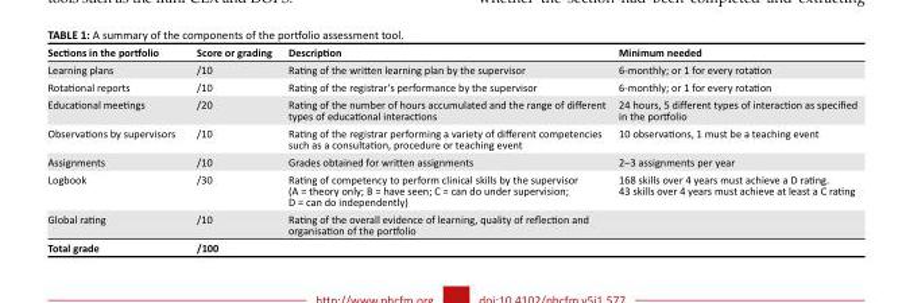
<table><thead><tr><td>Sections in the portfolio</td><td>Score or grading</td><td>Description</td><td>Minimum needed</td></tr></thead><tbody><tr><td>Learning plans</td><td>/10</td><td>Rating of the written learning plan by the supervisor</td><td>6-monthly; or 1 for every rotation</td></tr><tr><td>Rotational reports</td><td>/10</td><td>Rating of the registrar’s performance by the supervisor</td><td>6-monthly; or 1 for every rotation</td></tr><tr><td>Educational meetings</td><td>/20</td><td>Rating of the number of hours accumulated and the range of different types of educational interactions</td><td>24 hours, 5 different types of interaction as specified in the portfolio</td></tr><tr><td>Observations by supervisors</td><td>/10</td><td>Rating of the registrar performing a variety of different competencies such as a consultation, procedure or teaching event</td><td>10 observations, 1 must be a teaching event</td></tr><tr><td>Assignments</td><td>/10</td><td>Grades obtained for written assignments</td><td>2–3 assignments per year</td></tr><tr><td>Logbook</td><td>/30</td><td>Rating of competency to perform clinical skills by the supervisor (A = theory only; B = have seen; C = can do under supervision; D = can do independently)</td><td>168 skills over 4 years must achieve a D rating. 43 skills over 4 years must achieve at least a C rating</td></tr><tr><td>Global rating</td><td>/10</td><td>Rating of the overall evidence of learning, quality of reflection and organisation of the portfolio</td><td></td></tr><tr><td>Total grade</td><td>/100</td><td></td><td></td></tr></tbody></table>